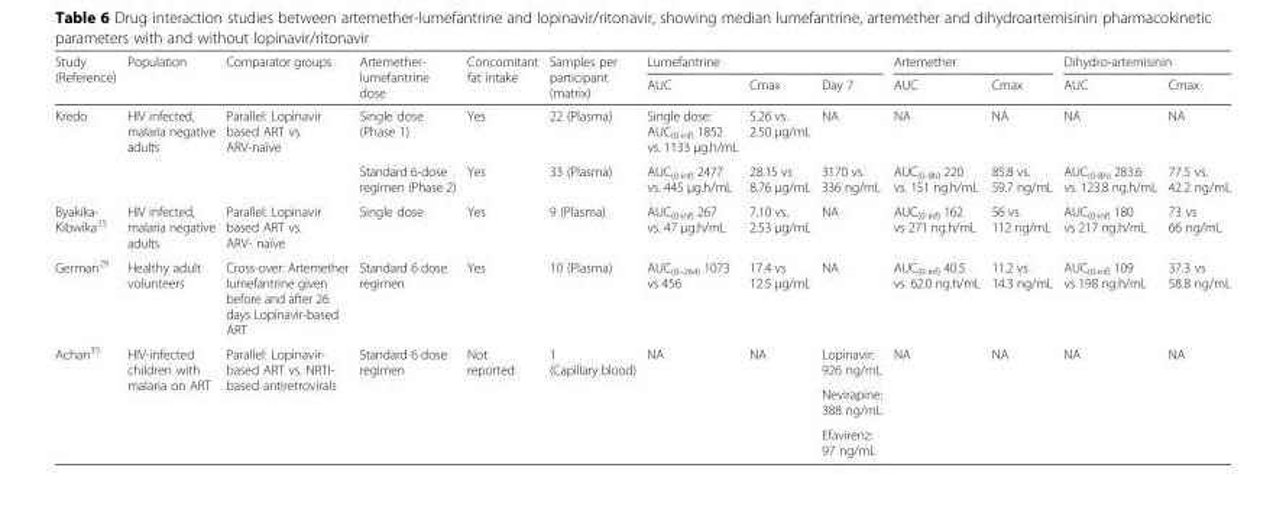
<table><thead><tr><td rowspan="2">Study (Reference)</td><td rowspan="2">Population</td><td rowspan="2">Comparator groups</td><td rowspan="2">Artemether- lumefantrine dose</td><td rowspan="2">Concomitant fat intake</td><td rowspan="2">Samples per participant (matrix)</td><td colspan="3">Lumefantrine</td><td colspan="2">Artemether</td><td colspan="2">Dihydro-artemisinin</td></tr><tr><td>AUC</td><td>Cmax</td><td>Day 7</td><td>AUC</td><td>Cmax</td><td>AUC</td><td>Cmax</td></tr></thead><tbody><tr><td rowspan="2">Kredo</td><td rowspan="2">HIV infected, malaria negative adults</td><td rowspan="2">Parallel: Lopinavir based ART vs. ARV-naïve</td><td>Single dose (Phase 1)</td><td>Yes</td><td>22 (Plasma)</td><td>Single dose: AUC<sub>(0-inf)</sub> 1852 vs. 1133 μg.h/mL</td><td>5.26 vs. 2.50 μg/mL</td><td>NA</td><td>NA</td><td>NA</td><td>NA</td><td>NA</td></tr><tr><td>Standard 6-dose regimen (Phase 2)</td><td>Yes</td><td>33 (Plasma)</td><td>AUC<sub>(0-inf)</sub> 2477 vs. 445 μg.h/mL</td><td>28.15 vs 8.76 μg/mL</td><td>3170 vs. 336 ng/mL</td><td>AUC<sub>(0-8h)</sub> 220 vs. 151 ng.h/mL</td><td>85.8 vs. 59.7 ng/mL</td><td>AUC<sub>(0-8h)</sub> 283.6 vs. 123.8 ng.h/mL</td><td>77.5 vs. 42.2 ng/mL</td></tr><tr><td>Byakika- Kibwika<sup>25</sup></td><td>HIV infected, malaria negative adults</td><td>Parallel: Lopinavir based ART vs. ARV- naïve</td><td>Single dose</td><td>Yes</td><td>9 (Plasma)</td><td>AUC<sub>(0-inf)</sub> 267 vs. 47 μg.h/mL</td><td>7.10 vs. 2.53 μg/mL</td><td>NA</td><td>AUC<sub>(0-inf)</sub> 162 vs 271 ng.h/mL</td><td>56 vs 112 ng/mL</td><td>AUC<sub>(0-inf)</sub> 180 vs 217 ng.h/mL</td><td>73 vs 66 ng/mL</td></tr><tr><td>German<sup>29</sup></td><td>Healthy adult volunteers</td><td>Cross-over: Artemether lumefantrine given before and after 26 days Lopinavir-based ART</td><td>Standard 6 dose regimen</td><td>Yes</td><td>10 (Plasma)</td><td>AUC<sub>(0–264)</sub> 1073 vs 456</td><td>17.4 vs 12.5 μg/mL</td><td>NA</td><td>AUC<sub>(0-inf)</sub> 40.5 vs. 62.0 ng.h/mL</td><td>11.2 vs 14.3 ng/mL</td><td>AUC<sub>(0-inf)</sub> 109 vs 198 ng.h/mL</td><td>37.3 vs 58.8 ng/mL</td></tr><tr><td rowspan="3">Achan<sup>35</sup></td><td rowspan="3">HIV-infected children with malaria on ART</td><td rowspan="3">Parallel: Lopinavir- based ART vs. NRTI- based antiretrovirals</td><td rowspan="3">Standard 6 dose regimen</td><td rowspan="3">Not reported</td><td rowspan="3">1 (Capillary blood)</td><td rowspan="3">NA</td><td rowspan="3">NA</td><td>Lopinavir: 926 ng/mL</td><td rowspan="3">NA</td><td rowspan="3">NA</td><td rowspan="3">NA</td><td rowspan="3">NA</td></tr><tr><td>Nevirapine: 388 ng/mL</td></tr><tr><td>Efavirenz: 97 ng/mL</td></tr></tbody></table>